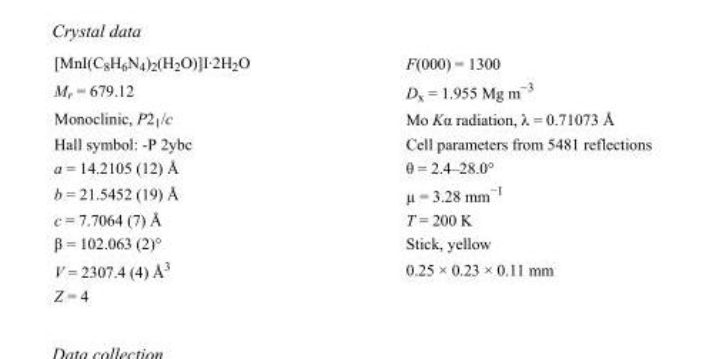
<table><tbody><tr><td>[MnI(C<sub>8</sub>H<sub>6</sub>N<sub>4</sub>)<sub>2</sub>(H<sub>2</sub>O)]I·2H<sub>2</sub>O</td><td>F(000) = 1300</td></tr><tr><td>M<sub>r</sub> = 679.12</td><td>D<sub>x</sub> = 1.955 Mg m<sup>−3</sup></td></tr><tr><td>Monoclinic, P2<sub>1</sub>/c</td><td>Mo Kα radiation, λ = 0.71073 Å</td></tr><tr><td>Hall symbol: -P 2ybc</td><td>Cell parameters from 5481 reflections</td></tr><tr><td>a = 14.2105 (12) Å</td><td>θ = 2.4–28.0°</td></tr><tr><td>b = 21.5452 (19) Å</td><td>µ = 3.28 mm<sup>−1</sup></td></tr><tr><td>c = 7.7064 (7) Å</td><td>T = 200 K</td></tr><tr><td>β = 102.063 (2)°</td><td>Stick, yellow</td></tr><tr><td>V = 2307.4 (4) Å<sup>3</sup></td><td>0.25 × 0.23 × 0.11 mm</td></tr><tr><td>Z = 4</td><td></td></tr></tbody></table>